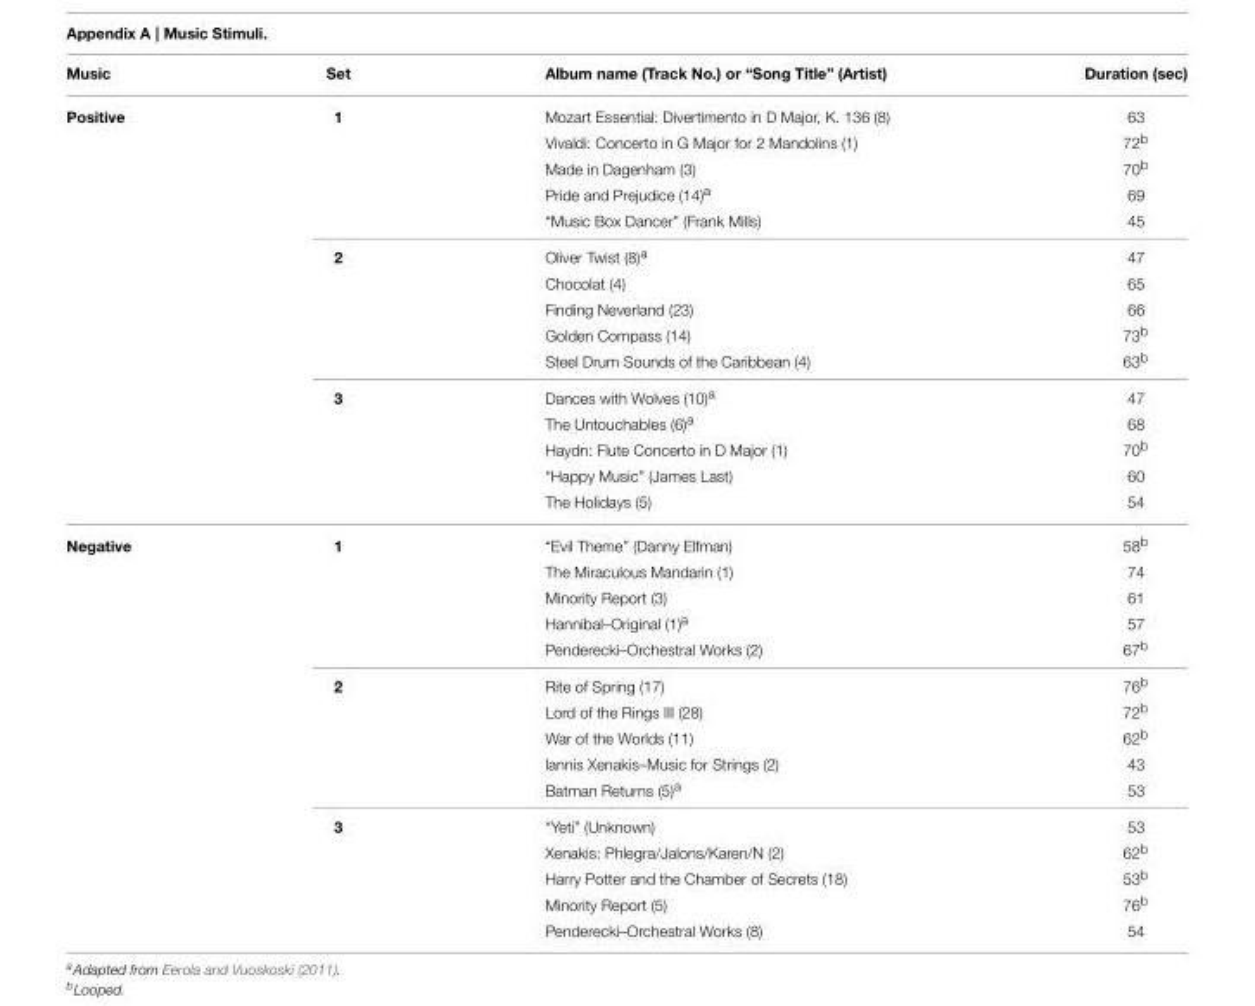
<table><thead><tr><td>Music</td><td>Set</td><td>Album name (Track No.) or “Song Title” (Artist)</td><td>Duration (sec)</td></tr></thead><tbody><tr><td rowspan="15">Positive</td><td>1</td><td>Mozart Essential: Divertimento in D Major, K. 136 (8)</td><td>63</td></tr><tr><td></td><td>Vivaldi: Concerto in G Major for 2 Mandolins (1)</td><td>72<sup>b</sup></td></tr><tr><td></td><td>Made in Dagenham (3)</td><td>70<sup>b</sup></td></tr><tr><td></td><td>Pride and Prejudice (14)<sup>a</sup></td><td>69</td></tr><tr><td></td><td>“Music Box Dancer” (Frank Mills)</td><td>45</td></tr><tr><td>2</td><td>Oliver Twist (8)<sup>a</sup></td><td>47</td></tr><tr><td></td><td>Chocolat (4)</td><td>65</td></tr><tr><td></td><td>Finding Neverland (23)</td><td>66</td></tr><tr><td></td><td>Golden Compass (14)</td><td>73<sup>b</sup></td></tr><tr><td></td><td>Steel Drum Sounds of the Caribbean (4)</td><td>63<sup>b</sup></td></tr><tr><td>3</td><td>Dances with Wolves (10)<sup>a</sup></td><td>47</td></tr><tr><td></td><td>The Untouchables (6)<sup>a</sup></td><td>68</td></tr><tr><td></td><td>Haydn: Flute Concerto in D Major (1)</td><td>70<sup>b</sup></td></tr><tr><td></td><td>“Happy Music” (James Last)</td><td>60</td></tr><tr><td></td><td>The Holidays (5)</td><td>54</td></tr><tr><td rowspan="15">Negative</td><td>1</td><td>“Evil Theme” (Danny Elfman)</td><td>58<sup>b</sup></td></tr><tr><td></td><td>The Miraculous Mandarin (1)</td><td>74</td></tr><tr><td></td><td>Minority Report (3)</td><td>61</td></tr><tr><td></td><td>Hannibal–Original (1)<sup>a</sup></td><td>57</td></tr><tr><td></td><td>Penderecki–Orchestral Works (2)</td><td>67<sup>b</sup></td></tr><tr><td>2</td><td>Rite of Spring (17)</td><td>76<sup>b</sup></td></tr><tr><td></td><td>Lord of the Rings III (28)</td><td>72<sup>b</sup></td></tr><tr><td></td><td>War of the Worlds (11)</td><td>62<sup>b</sup></td></tr><tr><td></td><td>Iannis Xenakis–Music for Strings (2)</td><td>43</td></tr><tr><td></td><td>Batman Returns (5)<sup>a</sup></td><td>53</td></tr><tr><td>3</td><td>“Yeti” (Unknown)</td><td>53</td></tr><tr><td></td><td>Xenakis: Phlegra/Jalons/Karen/N (2)</td><td>62<sup>b</sup></td></tr><tr><td></td><td>Harry Potter and the Chamber of Secrets (18)</td><td>53<sup>b</sup></td></tr><tr><td></td><td>Minority Report (5)</td><td>76<sup>b</sup></td></tr><tr><td></td><td>Penderecki–Orchestral Works (8)</td><td>54</td></tr></tbody></table>